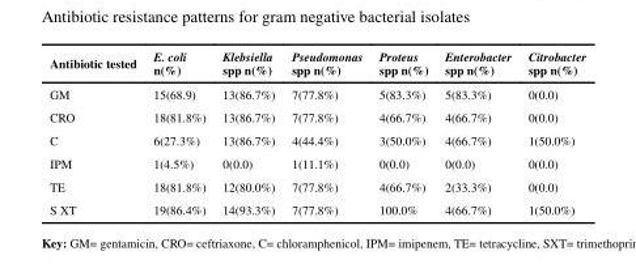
<table><thead><tr><td>Antibiotic tested</td><td>E. coli n(%)</td><td>Klebsiella spp n(%)</td><td>Pseudomonas spp n(%)</td><td>Proteus spp n(%)</td><td>Enterobacter spp n(%)</td><td>Citrobacter spp n(%)</td></tr></thead><tbody><tr><td>GM</td><td>15(68.9)</td><td>13(86.7%)</td><td>7(77.8%)</td><td>5(83.3%)</td><td>5(83.3%)</td><td>0(0.0)</td></tr><tr><td>CRO</td><td>18(81.8%)</td><td>13(86.7%)</td><td>7(77.8%)</td><td>4(66.7%)</td><td>4(66.7%)</td><td>0(0.0)</td></tr><tr><td>C</td><td>6(27.3%)</td><td>13(86.7%)</td><td>4(44.4%)</td><td>3(50.0%)</td><td>4(66.7%)</td><td>1(50.0%)</td></tr><tr><td>IPM</td><td>1(4.5%)</td><td>0(0.0)</td><td>1(11.1%)</td><td>0(0.0)</td><td>0(0.0)</td><td>0(0.0)</td></tr><tr><td>TE</td><td>18(81.8%)</td><td>12(80.0%)</td><td>7(77.8%)</td><td>4(66.7%)</td><td>2(33.3%)</td><td>0(0.0)</td></tr><tr><td>S XT</td><td>19(86.4%)</td><td>14(93.3%)</td><td>7(77.8%)</td><td>100.0%</td><td>4(66.7%)</td><td>1(50.0%)</td></tr></tbody></table>